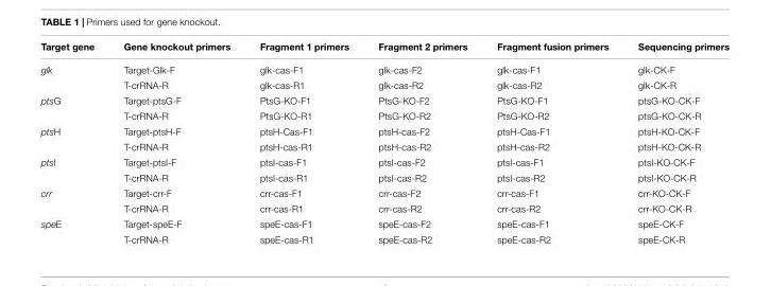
<table><thead><tr><td>Target gene</td><td>Gene knockout primers</td><td>Fragment 1 primers</td><td>Fragment 2 primers</td><td>Fragment fusion primers</td><td>Sequencing primers</td></tr></thead><tbody><tr><td rowspan="2">glk</td><td>Target-Glk-F</td><td>glk-cas-F1</td><td>glk-cas-F2</td><td>glk-cas-F1</td><td>glk-CK-F</td></tr><tr><td>T-crRNA-R</td><td>glk-cas-R1</td><td>glk-cas-R2</td><td>glk-cas-R2</td><td>glk-CK-R</td></tr><tr><td rowspan="2">ptsG</td><td>Target-ptsG-F</td><td>PtsG-KO-F1</td><td>PtsG-KO-F2</td><td>PtsG-KO-F1</td><td>ptsG-KO-CK-F</td></tr><tr><td>T-crRNA-R</td><td>PtsG-KO-R1</td><td>PtsG-KO-R2</td><td>PtsG-KO-R2</td><td>ptsG-KO-CK-R</td></tr><tr><td rowspan="2">ptsH</td><td>Target-ptsH-F</td><td>ptsH-Cas-F1</td><td>ptsH-cas-F2</td><td>ptsH-Cas-F1</td><td>ptsH-KO-CK-F</td></tr><tr><td>T-crRNA-R</td><td>ptsH-cas-R1</td><td>ptsH-cas-R2</td><td>ptsH-cas-R2</td><td>ptsH-KO-CK-R</td></tr><tr><td rowspan="2">ptsI</td><td>Target-ptsI-F</td><td>ptsI-cas-F1</td><td>ptsI-cas-F2</td><td>ptsI-cas-F1</td><td>ptsI-KO-CK-F</td></tr><tr><td>T-crRNA-R</td><td>ptsI-cas-R1</td><td>ptsI-cas-R2</td><td>ptsI-cas-R2</td><td>ptsI-KO-CK-R</td></tr><tr><td rowspan="2">crr</td><td>Target-crr-F</td><td>crr-cas-F1</td><td>crr-cas-F2</td><td>crr-cas-F1</td><td>crr-KO-CK-F</td></tr><tr><td>T-crRNA-R</td><td>crr-cas-R1</td><td>crr-cas-R2</td><td>crr-cas-R2</td><td>crr-KO-CK-R</td></tr><tr><td rowspan="2">speE</td><td>Target-speE-F</td><td>speE-cas-F1</td><td>speE-cas-F2</td><td>speE-cas-F1</td><td>speE-CK-F</td></tr><tr><td>T-crRNA-R</td><td>speE-cas-R1</td><td>speE-cas-R2</td><td>speE-cas-R2</td><td>speE-CK-R</td></tr></tbody></table>